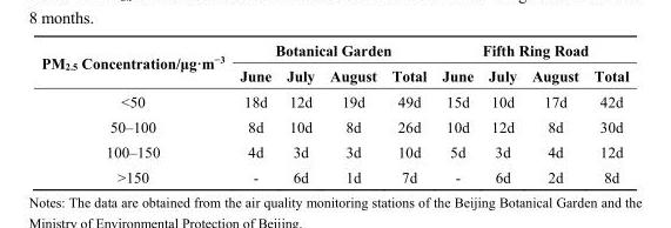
<table><thead><tr><td rowspan="2">PM<sub>2.5</sub> Concentration/μg·m<sup>−3</sup></td><td colspan="4">Botanical Garden</td><td colspan="4">Fifth Ring Road</td></tr><tr><td>June</td><td>July</td><td>August</td><td>Total</td><td>June</td><td>July</td><td>August</td><td>Total</td></tr></thead><tbody><tr><td>&lt;50</td><td>18d</td><td>12d</td><td>19d</td><td>49d</td><td>15d</td><td>10d</td><td>17d</td><td>42d</td></tr><tr><td>50–100</td><td>8d</td><td>10d</td><td>8d</td><td>26d</td><td>10d</td><td>12d</td><td>8d</td><td>30d</td></tr><tr><td>100–150</td><td>4d</td><td>3d</td><td>3d</td><td>10d</td><td>5d</td><td>3d</td><td>4d</td><td>12d</td></tr><tr><td>&gt;150</td><td>-</td><td>6d</td><td>1d</td><td>7d</td><td>-</td><td>6d</td><td>2d</td><td>8d</td></tr></tbody></table>